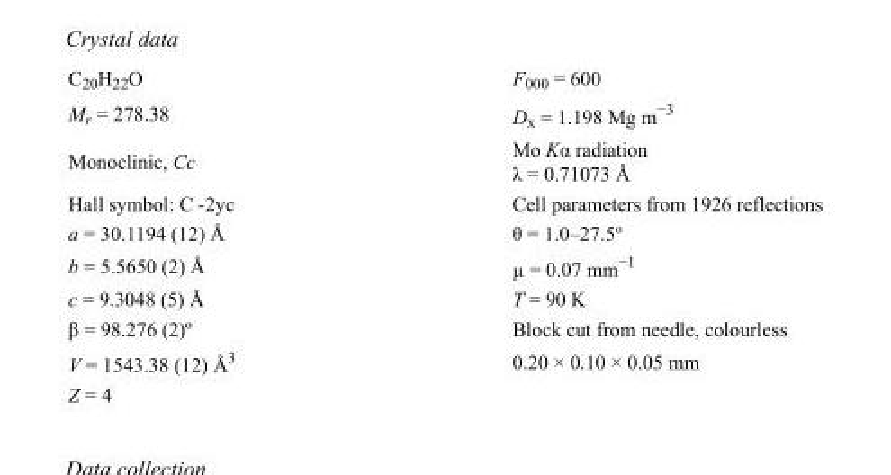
<table><tbody><tr><td>C<sub>20</sub>H<sub>22</sub>O</td><td>F000 = 600</td></tr><tr><td>M<sub>r</sub> = 278.38</td><td>D<sub>x</sub> = 1.198 Mg m<sup>−3</sup></td></tr><tr><td>Monoclinic, Cc</td><td>Mo Kα radiation λ = 0.71073 Å</td></tr><tr><td>Hall symbol: C -2yc</td><td>Cell parameters from 1926 reflections</td></tr><tr><td>a = 30.1194 (12) Å</td><td>θ = 1.0–27.5º</td></tr><tr><td>b = 5.5650 (2) Å</td><td>µ = 0.07 mm<sup>−1</sup></td></tr><tr><td>c = 9.3048 (5) Å</td><td>T = 90 K</td></tr><tr><td>β = 98.276 (2)º</td><td>Block cut from needle, colourless</td></tr><tr><td>V = 1543.38 (12) Å<sup>3</sup></td><td>0.20 × 0.10 × 0.05 mm</td></tr><tr><td>Z = 4</td><td></td></tr></tbody></table>